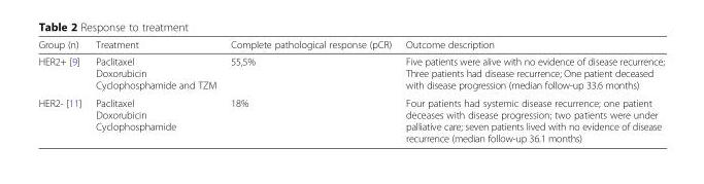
<table><thead><tr><td>Group (n)</td><td>Treatment</td><td>Complete pathological response (pCR)</td><td>Outcome description</td></tr></thead><tbody><tr><td>HER2+ [9]</td><td>Paclitaxel Doxorubicin Cyclophosphamide and TZM</td><td>55,5%</td><td>Five patients were alive with no evidence of disease recurrence; Three patients had disease recurrence; One patient deceased with disease progression (median follow-up 33.6 months)</td></tr><tr><td>HER2- [11]</td><td>Paclitaxel Doxorubicin Cyclophosphamide</td><td>18%</td><td>Four patients had systemic disease recurrence; one patient deceases with disease progression; two patients were under palliative care; seven patients lived with no evidence of disease recurrence (median follow-up 36.1 months)</td></tr></tbody></table>